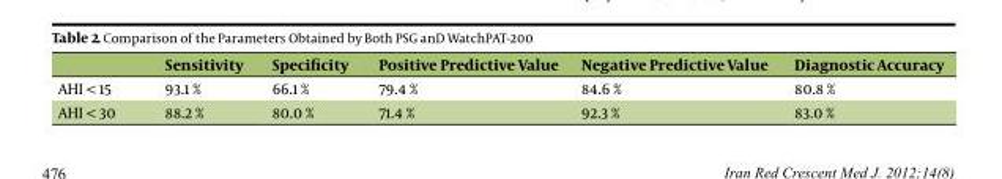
<table><thead><tr><td></td><td>Sensitivity</td><td>Specificity</td><td>Positive Predictive Value</td><td>Negative Predictive Value</td><td>Diagnostic Accuracy</td></tr></thead><tbody><tr><td>AHI &lt; 15</td><td>93.1 %</td><td>66.1 %</td><td>79.4 %</td><td>84.6 %</td><td>80.8 %</td></tr><tr><td>AHI &lt; 30</td><td>88.2 %</td><td>80.0 %</td><td>71.4 %</td><td>92.3 %</td><td>83.0 %</td></tr></tbody></table>